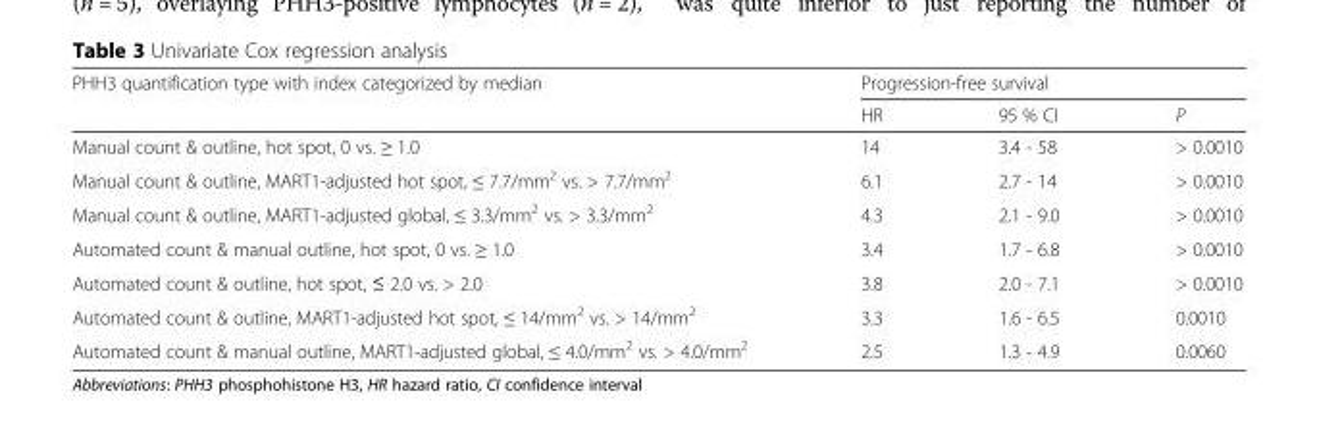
<table><thead><tr><td rowspan="2">PHH3 quantification type with index categorized by median</td><td colspan="3">Progression-free survival</td></tr><tr><td>HR</td><td>95 % CI</td><td>P</td></tr></thead><tbody><tr><td>Manual count &amp; outline, hot spot, 0 vs. ≥ 1.0</td><td>14</td><td>3.4 - 58</td><td>&gt; 0.0010</td></tr><tr><td>Manual count &amp; outline, MART1-adjusted hot spot, ≤ 7.7/mm<sup>2</sup> vs. &gt; 7.7/mm<sup>2</sup></td><td>6.1</td><td>2.7 - 14</td><td>&gt; 0.0010</td></tr><tr><td>Manual count &amp; outline, MART1-adjusted global, ≤ 3.3/mm<sup>2</sup> vs. &gt; 3.3/mm<sup>2</sup></td><td>4.3</td><td>2.1 - 9.0</td><td>&gt; 0.0010</td></tr><tr><td>Automated count &amp; manual outline, hot spot, 0 vs. ≥ 1.0</td><td>3.4</td><td>1.7 - 6.8</td><td>&gt; 0.0010</td></tr><tr><td>Automated count &amp; outline, hot spot, ≤ 2.0 vs. &gt; 2.0</td><td>3.8</td><td>2.0 - 7.1</td><td>&gt; 0.0010</td></tr><tr><td>Automated count &amp; outline, MART1-adjusted hot spot, ≤ 14/mm<sup>2</sup> vs. &gt; 14/mm<sup>2</sup></td><td>3.3</td><td>1.6 - 6.5</td><td>0.0010</td></tr><tr><td>Automated count &amp; manual outline, MART1-adjusted global, ≤ 4.0/mm<sup>2</sup> vs. &gt; 4.0/mm<sup>2</sup></td><td>2.5</td><td>1.3 - 4.9</td><td>0.0060</td></tr></tbody></table>